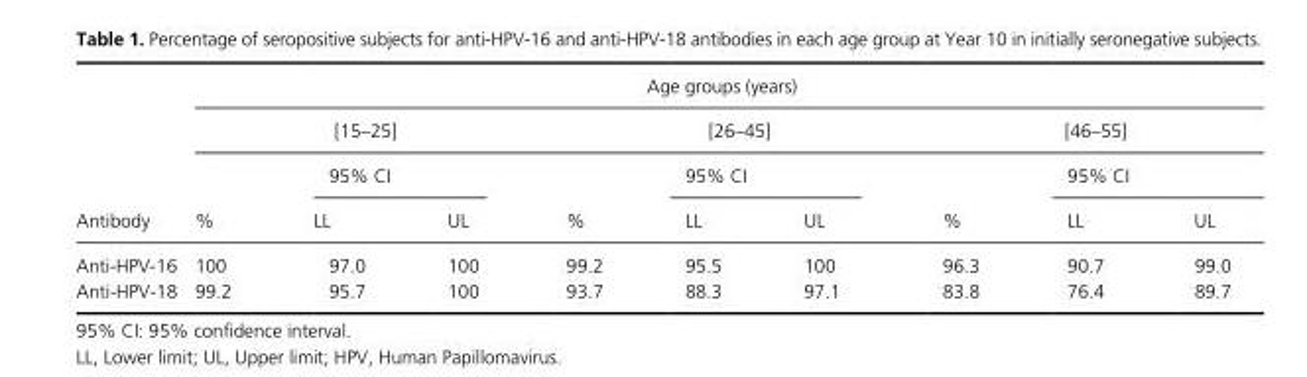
<table><thead><tr><td rowspan="4">Antibody</td><td colspan="9">Age groups (years)</td></tr><tr><td colspan="3">[15–25]</td><td colspan="3">[26–45]</td><td colspan="3">[46–55]</td></tr><tr><td rowspan="2">%</td><td colspan="2">95% CI</td><td rowspan="2">%</td><td colspan="2">95% CI</td><td rowspan="2">%</td><td colspan="2">95% CI</td></tr><tr><td>LL</td><td>UL</td><td>LL</td><td>UL</td><td>LL</td><td>UL</td></tr></thead><tbody><tr><td>Anti- HPV- 16</td><td>100</td><td>97.0</td><td>100</td><td>99.2</td><td>95.5</td><td>100</td><td>96.3</td><td>90.7</td><td>99.0</td></tr><tr><td>Anti- HPV- 18</td><td>99.2</td><td>95.7</td><td>100</td><td>93.7</td><td>88.3</td><td>97.1</td><td>83.8</td><td>76.4</td><td>89.7</td></tr></tbody></table>